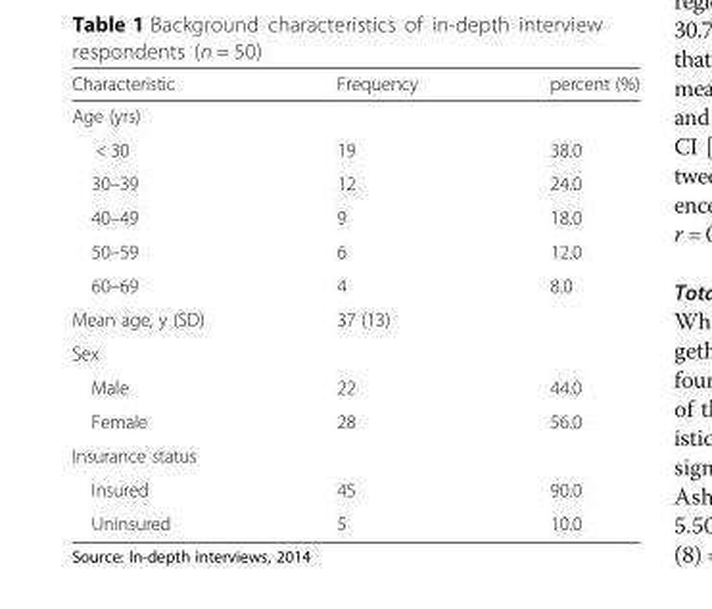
<table><thead><tr><td>Characteristic</td><td>Frequency</td><td>percent (%)</td></tr></thead><tbody><tr><td colspan="3">Age (yrs)</td></tr><tr><td>&lt; 30</td><td>19</td><td>38.0</td></tr><tr><td>30–39</td><td>12</td><td>24.0</td></tr><tr><td>40–49</td><td>9</td><td>18.0</td></tr><tr><td>50–59</td><td>6</td><td>12.0</td></tr><tr><td>60–69</td><td>4</td><td>8.0</td></tr><tr><td>Mean age, y (SD)</td><td>37 (13)</td><td></td></tr><tr><td colspan="3">Sex</td></tr><tr><td>Male</td><td>22</td><td>44.0</td></tr><tr><td>Female</td><td>28</td><td>56.0</td></tr><tr><td colspan="3">Insurance status</td></tr><tr><td>Insured</td><td>45</td><td>90.0</td></tr><tr><td>Uninsured</td><td>5</td><td>10.0</td></tr></tbody></table>